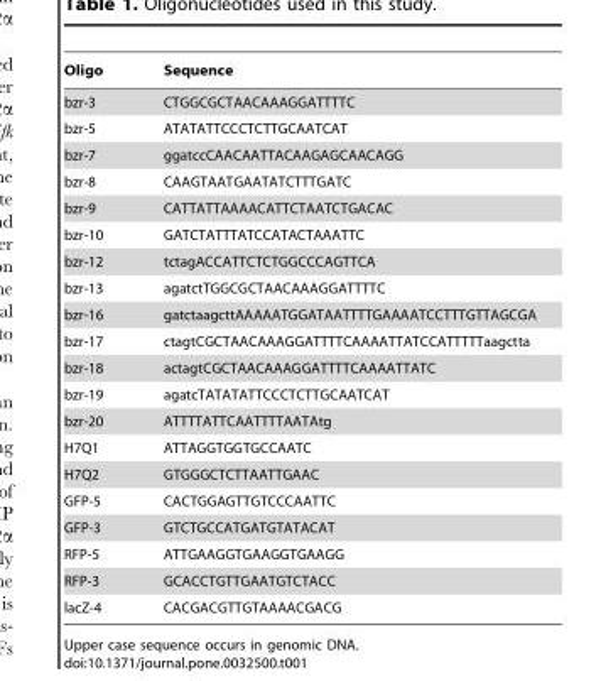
<table><thead><tr><td>Oligo</td><td>Sequence</td></tr></thead><tbody><tr><td>bzr-3</td><td>CTGGCGCTAACAAAGGATTTTC</td></tr><tr><td>bzr-5</td><td>ATATATTCCCTCTTGCAATCAT</td></tr><tr><td>bzr-7</td><td>ggatccCAACAATTACAAGAGCAACAGG</td></tr><tr><td>bzr-8</td><td>CAAGTAATGAATATCTTTGATC</td></tr><tr><td>bzr-9</td><td>CATTATTAAAACATTCTAATCTGACAC</td></tr><tr><td>bzr-10</td><td>GATCTATTTATCCATACTAAATTC</td></tr><tr><td>bzr-12</td><td>tctagACCATTCTCTGGCCCAGTTCA</td></tr><tr><td>bzr-13</td><td>agatctTGGCGCTAACAAAGGATTTTC</td></tr><tr><td>bzr-16</td><td>gatctaagcttAAAAATGGATAATTTTGAAAATCCTTTGTTAGCGA</td></tr><tr><td>bzr-17</td><td>ctagtCGCTAACAAAGGATTTTCAAAATTATCCATTTTTaagctta</td></tr><tr><td>bzr-18</td><td>actagtCGCTAACAAAGGATTTTCAAAATTATC</td></tr><tr><td>bzr-19</td><td>agatcTATATATTCCCTCTTGCAATCAT</td></tr><tr><td>bzr-20</td><td>ATTTTATTCAATTTTAATAtg</td></tr><tr><td>H7Q1</td><td>ATTAGGTGGTGCCAATC</td></tr><tr><td>H7Q2</td><td>GTGGGCTCTTAATTGAAC</td></tr><tr><td>GFP-5</td><td>CACTGGAGTTGTCCCAATTC</td></tr><tr><td>GFP-3</td><td>GTCTGCCATGATGTATACAT</td></tr><tr><td>RFP-5</td><td>ATTGAAGGTGAAGGTGAAGG</td></tr><tr><td>RFP-3</td><td>GCACCTGTTGAATGTCTACC</td></tr><tr><td>lacZ-4</td><td>CACGACGTTGTAAAACGACG</td></tr></tbody></table>